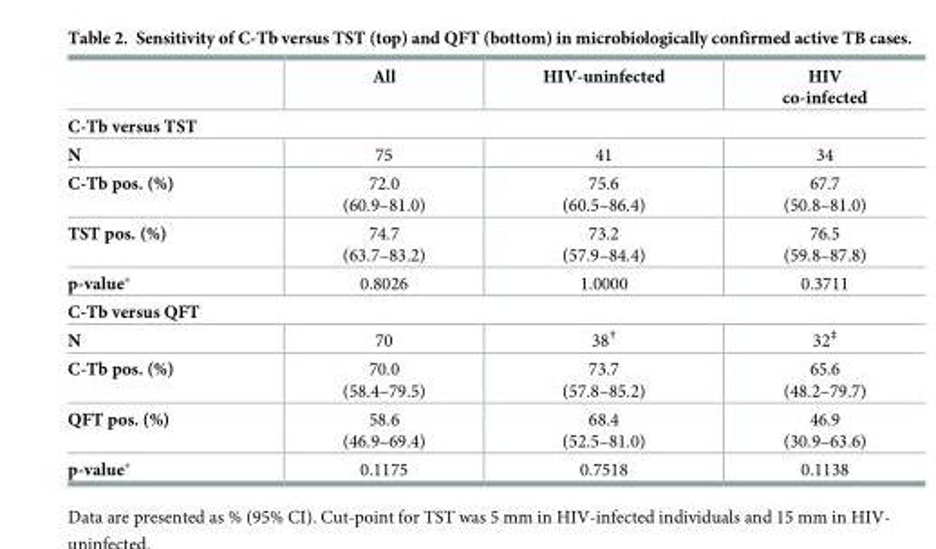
<table><thead><tr><td></td><td>All</td><td>HIV-uninfected</td><td>HIV co-infected</td></tr></thead><tbody><tr><td colspan="4">C-Tb versus TST</td></tr><tr><td>N</td><td>75</td><td>41</td><td>34</td></tr><tr><td>C-Tb pos. (%)</td><td>72.0 (60.9–81.0)</td><td>75.6 (60.5–86.4)</td><td>67.7 (50.8–81.0)</td></tr><tr><td>TST pos. (%)</td><td>74.7 (63.7–83.2)</td><td>73.2 (57.9–84.4)</td><td>76.5 (59.8–87.8)</td></tr><tr><td>p-value*</td><td>0.8026</td><td>1.0000</td><td>0.3711</td></tr><tr><td colspan="4">C-Tb versus QFT</td></tr><tr><td>N</td><td>70</td><td>38<sup>†</sup></td><td>32<sup>‡</sup></td></tr><tr><td>C-Tb pos. (%)</td><td>70.0 (58.4–79.5)</td><td>73.7 (57.8–85.2)</td><td>65.6 (48.2–79.7)</td></tr><tr><td>QFT pos. (%)</td><td>58.6 (46.9–69.4)</td><td>68.4 (52.5–81.0)</td><td>46.9 (30.9–63.6)</td></tr><tr><td>p-value*</td><td>0.1175</td><td>0.7518</td><td>0.1138</td></tr></tbody></table>